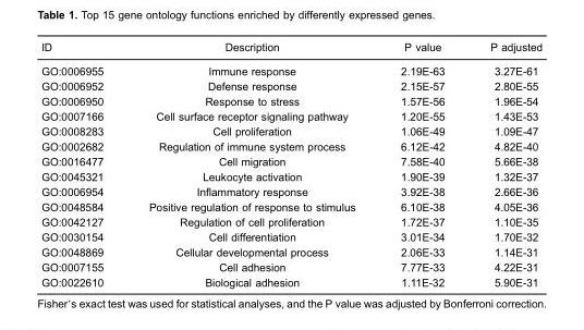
<table><thead><tr><td>ID</td><td>Description</td><td>P value</td><td>P adjusted</td></tr></thead><tbody><tr><td>GO:0006955</td><td>Immune response</td><td>2.19E-63</td><td>3.27E-61</td></tr><tr><td>GO:0006952</td><td>Defense response</td><td>2.15E-57</td><td>2.80E-55</td></tr><tr><td>GO:0006950</td><td>Response to stress</td><td>1.57E-56</td><td>1.96E-54</td></tr><tr><td>GO:0007166</td><td>Cell surface receptor signaling pathway</td><td>1.20E-55</td><td>1.43E-53</td></tr><tr><td>GO:0008283</td><td>Cell proliferation</td><td>1.06E-49</td><td>1.09E-47</td></tr><tr><td>GO:0002682</td><td>Regulation of immune system process</td><td>6.12E-42</td><td>4.82E-40</td></tr><tr><td>GO:0016477</td><td>Cell migration</td><td>7.58E-40</td><td>5.66E-38</td></tr><tr><td>GO:0045321</td><td>Leukocyte activation</td><td>1.90E-39</td><td>1.32E-37</td></tr><tr><td>GO:0006954</td><td>Inflammatory response</td><td>3.92E-38</td><td>2.66E-36</td></tr><tr><td>GO:0048584</td><td>Positive regulation of response to stimulus</td><td>6.10E-38</td><td>4.05E-36</td></tr><tr><td>GO:0042127</td><td>Regulation of cell proliferation</td><td>1.72E-37</td><td>1.10E-35</td></tr><tr><td>GO:0030154</td><td>Cell differentiation</td><td>3.01E-34</td><td>1.70E-32</td></tr><tr><td>GO:0048869</td><td>Cellular developmental process</td><td>2.06E-33</td><td>1.14E-31</td></tr><tr><td>GO:0007155</td><td>Cell adhesion</td><td>7.77E-33</td><td>4.22E-31</td></tr><tr><td>GO:0022610</td><td>Biological adhesion</td><td>1.11E-32</td><td>5.90E-31</td></tr></tbody></table>